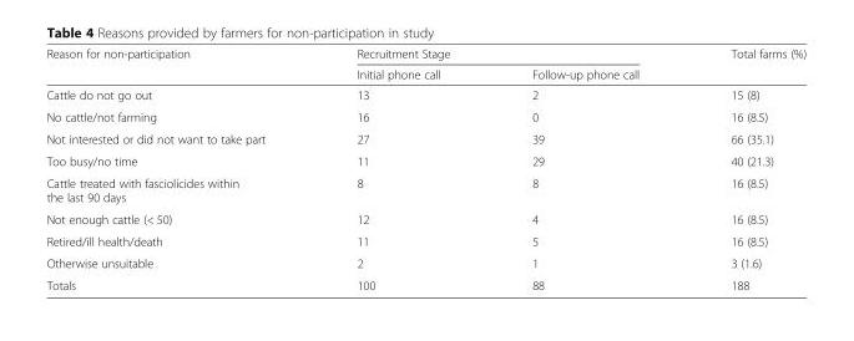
<table><thead><tr><td rowspan="2">Reason for non-participation</td><td colspan="2">Recruitment Stage</td><td rowspan="2">Total farms (%)</td></tr><tr><td>Initial phone call</td><td>Follow-up phone call</td></tr></thead><tbody><tr><td>Cattle do not go out</td><td>13</td><td>2</td><td>15 (8)</td></tr><tr><td>No cattle/not farming</td><td>16</td><td>0</td><td>16 (8.5)</td></tr><tr><td>Not interested or did not want to take part</td><td>27</td><td>39</td><td>66 (35.1)</td></tr><tr><td>Too busy/no time</td><td>11</td><td>29</td><td>40 (21.3)</td></tr><tr><td>Cattle treated with fasciolicides within the last 90 days</td><td>8</td><td>8</td><td>16 (8.5)</td></tr><tr><td>Not enough cattle (&lt; 50)</td><td>12</td><td>4</td><td>16 (8.5)</td></tr><tr><td>Retired/ill health/death</td><td>11</td><td>5</td><td>16 (8.5)</td></tr><tr><td>Otherwise unsuitable</td><td>2</td><td>1</td><td>3 (1.6)</td></tr><tr><td>Totals</td><td>100</td><td>88</td><td>188</td></tr></tbody></table>